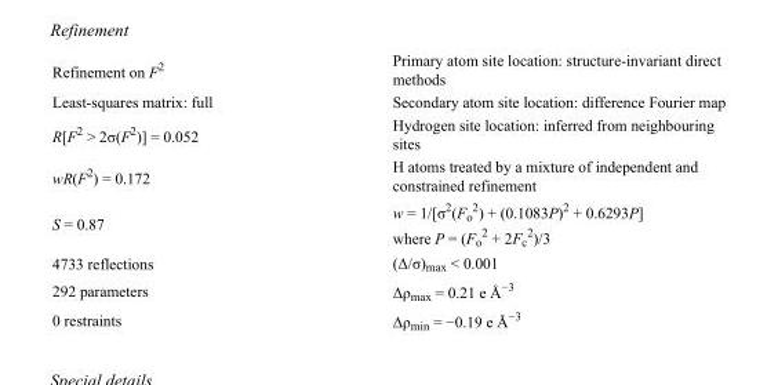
<table><tbody><tr><td>Refinement on F<sup>2</sup></td><td>Primary atom site location: structure-invariant direct methods</td></tr><tr><td>Least-squares matrix: full</td><td>Secondary atom site location: difference Fourier map</td></tr><tr><td>R[F<sup>2</sup> &gt; 2σ(F<sup>2</sup>)] = 0.052</td><td>Hydrogen site location: inferred from neighbouring sites</td></tr><tr><td>wR(F<sup>2</sup>) = 0.172</td><td>H atoms treated by a mixture of independent and constrained refinement</td></tr><tr><td>S = 0.87</td><td>w = 1/[σ<sup>2</sup>(F<sub>o</sub> <sup>2</sup>) + (0.1083P)<sup>2</sup> + 0.6293P] where P = (F<sub>o</sub> <sup>2</sup> + 2F<sub>c</sub> <sup>2</sup>)/3</td></tr><tr><td>4733 reflections</td><td>(Δ/σ)<sub>max</sub> &lt; 0.001</td></tr><tr><td>292 parameters</td><td>Δρ<sub>max</sub> = 0.21 e Å<sup>−3</sup></td></tr><tr><td>0 restraints</td><td>Δρ<sub>min</sub> = −0.19 e Å<sup>−3</sup></td></tr></tbody></table>